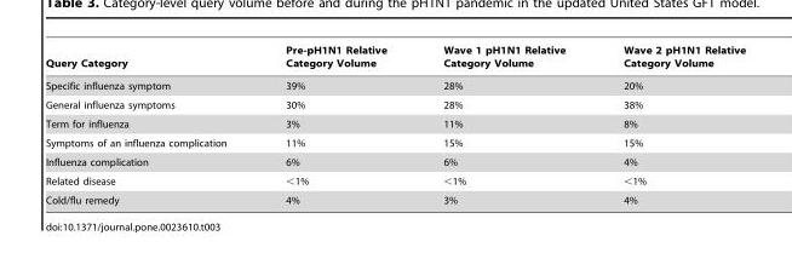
<table><thead><tr><td>Query Category</td><td>Pre-pH1N1 Relative Category Volume</td><td>Wave 1 pH1N1 Relative Category Volume</td><td>Wave 2 pH1N1 Relative Category Volume</td></tr></thead><tbody><tr><td>Specific influenza symptom</td><td>39%</td><td>28%</td><td>20%</td></tr><tr><td>General influenza symptoms</td><td>30%</td><td>28%</td><td>38%</td></tr><tr><td>Term for influenza</td><td>3%</td><td>11%</td><td>8%</td></tr><tr><td>Symptoms of an influenza complication</td><td>11%</td><td>15%</td><td>15%</td></tr><tr><td>Influenza complication</td><td>6%</td><td>6%</td><td>4%</td></tr><tr><td>Related disease</td><td>&lt;1%</td><td>&lt;1%</td><td>&lt;1%</td></tr><tr><td>Cold/flu remedy</td><td>4%</td><td>3%</td><td>4%</td></tr></tbody></table>